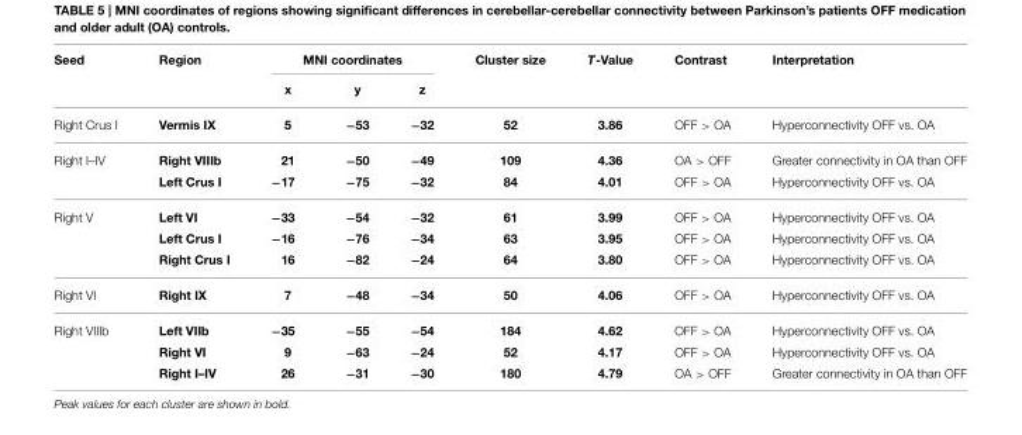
<table><thead><tr><td rowspan="2">Seed</td><td rowspan="2">Region</td><td colspan="3">MNI coordinates</td><td rowspan="2">Cluster size</td><td rowspan="2">T-Value</td><td rowspan="2">Contrast</td><td rowspan="2">Interpretation</td></tr><tr><td>x</td><td>y</td><td>z</td></tr></thead><tbody><tr><td>Right Crus I</td><td>Vermis IX</td><td>5</td><td>−53</td><td>−32</td><td>52</td><td>3.86</td><td>OFF &gt; OA</td><td>Hyperconnectivity OFF vs. OA</td></tr><tr><td rowspan="2">Right I–IV</td><td>Right VIIIb</td><td>21</td><td>−50</td><td>−49</td><td>109</td><td>4.36</td><td>OA &gt; OFF</td><td>Greater connectivity in OA than OFF</td></tr><tr><td>Left Crus I</td><td>−17</td><td>−75</td><td>−32</td><td>84</td><td>4.01</td><td>OFF &gt; OA</td><td>Hyperconnectivity OFF vs. OA</td></tr><tr><td rowspan="3">Right V</td><td>Left VI</td><td>−33</td><td>−54</td><td>−32</td><td>61</td><td>3.99</td><td>OFF &gt; OA</td><td>Hyperconnectivity OFF vs. OA</td></tr><tr><td>Left Crus I</td><td>−16</td><td>−76</td><td>−34</td><td>63</td><td>3.95</td><td>OFF &gt; OA</td><td>Hyperconnectivity OFF vs. OA</td></tr><tr><td>Right Crus I</td><td>16</td><td>−82</td><td>−24</td><td>64</td><td>3.80</td><td>OFF &gt; OA</td><td>Hyperconnectivity OFF vs. OA</td></tr><tr><td>Right VI</td><td>Right IX</td><td>7</td><td>−48</td><td>−34</td><td>50</td><td>4.06</td><td>OFF &gt; OA</td><td>Hyperconnectivity OFF vs. OA</td></tr><tr><td rowspan="3">Right VIIIb</td><td>Left VIIb</td><td>−35</td><td>−55</td><td>−54</td><td>184</td><td>4.62</td><td>OFF &gt; OA</td><td>Hyperconnectivity OFF vs. OA</td></tr><tr><td>Right VI</td><td>9</td><td>−63</td><td>−24</td><td>52</td><td>4.17</td><td>OFF &gt; OA</td><td>Hyperconnectivity OFF vs. OA</td></tr><tr><td>Right I–IV</td><td>26</td><td>−31</td><td>−30</td><td>180</td><td>4.79</td><td>OA &gt; OFF</td><td>Greater connectivity in OA than OFF</td></tr></tbody></table>